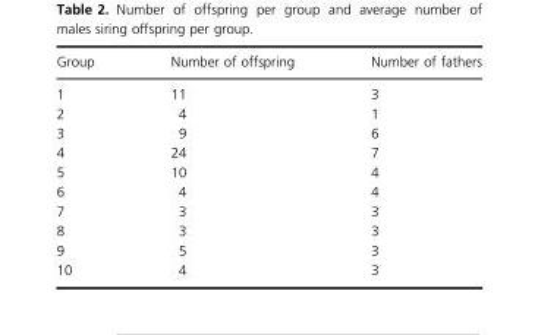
<table><thead><tr><td>Group</td><td>Number of offspring</td><td>Number of fathers</td></tr></thead><tbody><tr><td>1</td><td>11</td><td>3</td></tr><tr><td>2</td><td>4</td><td>1</td></tr><tr><td>3</td><td>9</td><td>6</td></tr><tr><td>4</td><td>24</td><td>7</td></tr><tr><td>5</td><td>10</td><td>4</td></tr><tr><td>6</td><td>4</td><td>4</td></tr><tr><td>7</td><td>3</td><td>3</td></tr><tr><td>8</td><td>3</td><td>3</td></tr><tr><td>9</td><td>5</td><td>3</td></tr><tr><td>10</td><td>4</td><td>3</td></tr></tbody></table>